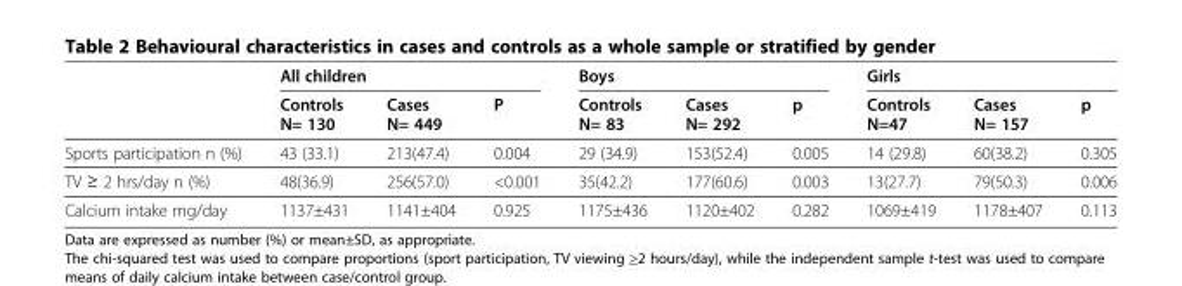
<table><thead><tr><td rowspan="2"></td><td colspan="3">All children</td><td colspan="3">Boys</td><td colspan="3">Girls</td></tr><tr><td>Controls N= 130</td><td>Cases N= 449</td><td>P</td><td>Controls N= 83</td><td>Cases N= 292</td><td>p</td><td>Controls N=47</td><td>Cases N= 157</td><td>p</td></tr></thead><tbody><tr><td>Sports participation n (%)</td><td>43 (33.1)</td><td>213(47.4)</td><td>0.004</td><td>29 (34.9)</td><td>153(52.4)</td><td>0.005</td><td>14 (29.8)</td><td>60(38.2)</td><td>0.305</td></tr><tr><td>TV ≥ 2 hrs/day n (%)</td><td>48(36.9)</td><td>256(57.0)</td><td>&lt;0.001</td><td>35(42.2)</td><td>177(60.6)</td><td>0.003</td><td>13(27.7)</td><td>79(50.3)</td><td>0.006</td></tr><tr><td>Calcium intake mg/day</td><td>1137±431</td><td>1141±404</td><td>0.925</td><td>1175±436</td><td>1120±402</td><td>0.282</td><td>1069±419</td><td>1178±407</td><td>0.113</td></tr></tbody></table>